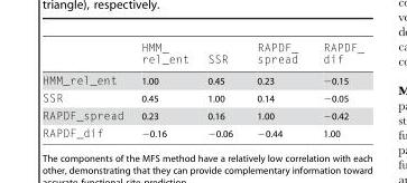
<table><thead><tr><td></td><td>HMM_ rel_ent</td><td>SSR</td><td>RAPDF_ spread</td><td>RAPDF_ dif</td></tr></thead><tbody><tr><td>HMM_rel_ent</td><td>1.00</td><td>0.45</td><td>0.23</td><td>−0.15</td></tr><tr><td>SSR</td><td>0.45</td><td>1.00</td><td>0.14</td><td>−0.05</td></tr><tr><td>RAPDF_spread</td><td>0.23</td><td>0.16</td><td>1.00</td><td>−0.42</td></tr><tr><td>RAPDF_dif</td><td>−0.16</td><td>−0.06</td><td>−0.44</td><td>1.00</td></tr></tbody></table>